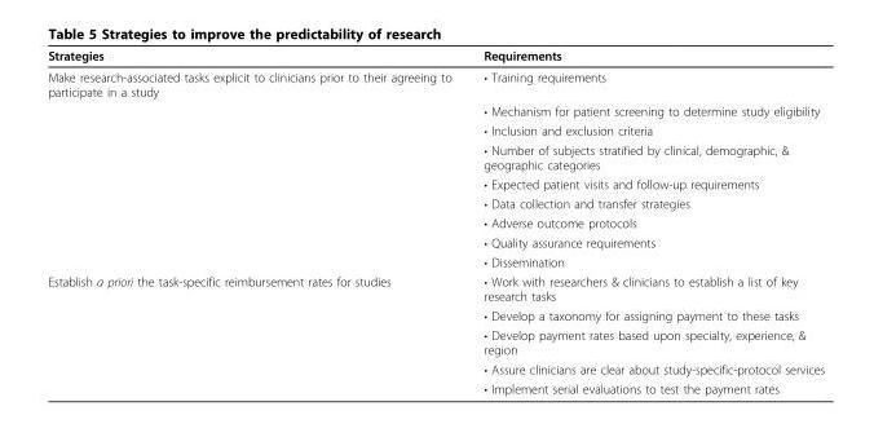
<table><thead><tr><td>Strategies</td><td>Requirements</td></tr></thead><tbody><tr><td rowspan="9">Make research-associated tasks explicit to clinicians prior to their agreeing to participate in a study</td><td>• Training requirements</td></tr><tr><td>• Mechanism for patient screening to determine study eligibility</td></tr><tr><td>• Inclusion and exclusion criteria</td></tr><tr><td>• Number of subjects stratified by clinical, demographic, &amp; geographic categories</td></tr><tr><td>• Expected patient visits and follow-up requirements</td></tr><tr><td>• Data collection and transfer strategies</td></tr><tr><td>• Adverse outcome protocols</td></tr><tr><td>• Quality assurance requirements</td></tr><tr><td>• Dissemination</td></tr><tr><td rowspan="5">Establish a priori the task-specific reimbursement rates for studies</td><td>• Work with researchers &amp; clinicians to establish a list of key research tasks</td></tr><tr><td>• Develop a taxonomy for assigning payment to these tasks</td></tr><tr><td>• Develop payment rates based upon specialty, experience, &amp; region</td></tr><tr><td>• Assure clinicians are clear about study-specific-protocol services</td></tr><tr><td>• Implement serial evaluations to test the payment rates</td></tr></tbody></table>